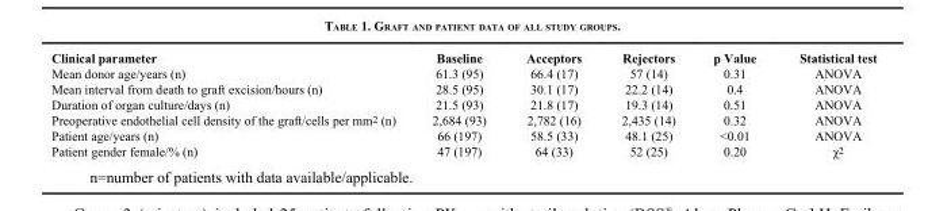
<table><thead><tr><td>Clinical parameter</td><td>Baseline</td><td>Acceptors</td><td>Rejectors</td><td>p Value</td><td>Statistical test</td></tr></thead><tbody><tr><td>Mean donor age/years (n)</td><td>61.3 (95)</td><td>66.4 (17)</td><td>57 (14)</td><td>0.31</td><td>ANOVA</td></tr><tr><td>Mean interval from death to graft excision/hours (n)</td><td>28.5 (95)</td><td>30.1 (17)</td><td>22.2 (14)</td><td>0.4</td><td>ANOVA</td></tr><tr><td>Duration of organ culture/days (n)</td><td>21.5 (93)</td><td>21.8 (17)</td><td>19.3 (14)</td><td>0.51</td><td>ANOVA</td></tr><tr><td>Preoperative endothelial cell density of the graft/cells per mm<sup>2</sup> (n)</td><td>2,684 (93)</td><td>2,782 (16)</td><td>2,435 (14)</td><td>0.32</td><td>ANOVA</td></tr><tr><td>Patient age/years (n)</td><td>66 (197)</td><td>58.5 (33)</td><td>48.1 (25)</td><td>&lt;0.01</td><td>ANOVA</td></tr><tr><td>Patient gender female/% (n)</td><td>47 (197)</td><td>64 (33)</td><td>52 (25)</td><td>0.20</td><td>χ<sup>2</sup></td></tr></tbody></table>